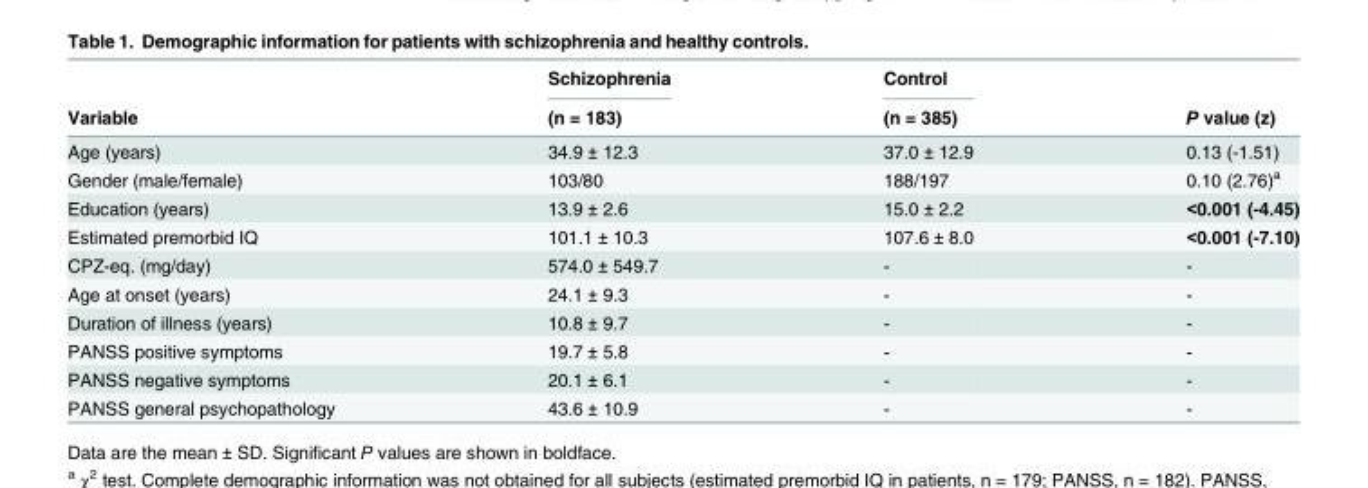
<table><thead><tr><td rowspan="2">Variable</td><td rowspan="2">Schizophrenia (n = 183)</td><td rowspan="2">Control (n = 385)</td><td rowspan="2">P value (z)</td></tr><tr></tr></thead><tbody><tr><td>Age (years)</td><td>34.9 ± 12.3</td><td>37.0 ± 12.9</td><td>0.13 (-1.51)</td></tr><tr><td>Gender (male/female)</td><td>103/80</td><td>188/197</td><td>0.10 (2.76)<sup>a</sup></td></tr><tr><td>Education (years)</td><td>13.9 ± 2.6</td><td>15.0 ± 2.2</td><td>&lt;0.001 (-4.45)</td></tr><tr><td>Estimated premorbid IQ</td><td>101.1 ± 10.3</td><td>107.6 ± 8.0</td><td>&lt;0.001 (-7.10)</td></tr><tr><td>CPZ-eq. (mg/day)</td><td>574.0 ± 549.7</td><td>-</td><td>-</td></tr><tr><td>Age at onset (years)</td><td>24.1 ± 9.3</td><td>-</td><td>-</td></tr><tr><td>Duration of illness (years)</td><td>10.8 ± 9.7</td><td>-</td><td>-</td></tr><tr><td>PANSS positive symptoms</td><td>19.7 ± 5.8</td><td>-</td><td>-</td></tr><tr><td>PANSS negative symptoms</td><td>20.1 ± 6.1</td><td>-</td><td>-</td></tr><tr><td>PANSS general psychopathology</td><td>43.6 ± 10.9</td><td>-</td><td>-</td></tr></tbody></table>